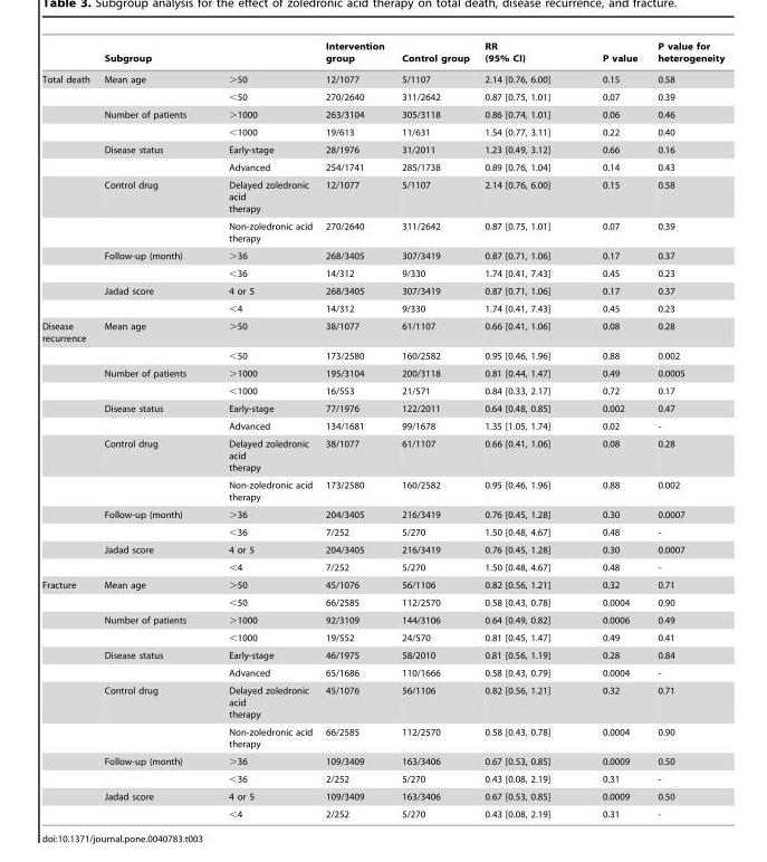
<table><thead><tr><td rowspan="2">Total death</td><td colspan="2">Subgroup</td><td rowspan="2">Intervention group 12/1077</td><td rowspan="2">Control group 5/1107</td><td rowspan="2">RR (95% CI) 2.14 [0.76, 6.00]</td><td rowspan="2">P value 0.15</td><td rowspan="2">P value for heterogeneity 0.58</td></tr><tr><td>Mean age</td><td>&gt;50</td></tr></thead><tbody><tr><td></td><td></td><td>&lt;50</td><td>270/2640</td><td>311/2642</td><td>0.87 [0.75, 1.01]</td><td>0.07</td><td>0.39</td></tr><tr><td></td><td>Number of patients</td><td>&gt;1000</td><td>263/3104</td><td>305/3118</td><td>0.86 [0.74, 1.01]</td><td>0.06</td><td>0.46</td></tr><tr><td></td><td></td><td>&lt;1000</td><td>19/613</td><td>11/631</td><td>1.54 [0.77, 3.11]</td><td>0.22</td><td>0.40</td></tr><tr><td></td><td>Disease status</td><td>Early-stage</td><td>28/1976</td><td>31/2011</td><td>1.23 [0.49, 3.12]</td><td>0.66</td><td>0.16</td></tr><tr><td></td><td></td><td>Advanced</td><td>254/1741</td><td>285/1738</td><td>0.89 [0.76, 1.04]</td><td>0.14</td><td>0.43</td></tr><tr><td></td><td>Control drug</td><td>Delayed zoledronic acid therapy</td><td>12/1077</td><td>5/1107</td><td>2.14 [0.76, 6.00]</td><td>0.15</td><td>0.58</td></tr><tr><td></td><td></td><td>Non-zoledronic acid therapy</td><td>270/2640</td><td>311/2642</td><td>0.87 [0.75, 1.01]</td><td>0.07</td><td>0.39</td></tr><tr><td></td><td>Follow-up (month)</td><td>&gt;36</td><td>268/3405</td><td>307/3419</td><td>0.87 [0.71, 1.06]</td><td>0.17</td><td>0.37</td></tr><tr><td></td><td></td><td>&lt;36</td><td>14/312</td><td>9/330</td><td>1.74 [0.41, 7.43]</td><td>0.45</td><td>0.23</td></tr><tr><td></td><td>Jadad score</td><td>4 or 5</td><td>268/3405</td><td>307/3419</td><td>0.87 [0.71, 1.06]</td><td>0.17</td><td>0.37</td></tr><tr><td></td><td></td><td>&lt;4</td><td>14/312</td><td>9/330</td><td>1.74 [0.41, 7.43]</td><td>0.45</td><td>0.23</td></tr><tr><td rowspan="12">Disease recurrence</td><td>Mean age</td><td>&gt;50</td><td>38/1077</td><td>61/1107</td><td>0.66 [0.41, 1.06]</td><td>0.08</td><td>0.28</td></tr><tr><td></td><td>&lt;50</td><td>173/2580</td><td>160/2582</td><td>0.95 [0.46, 1.96]</td><td>0.88</td><td>0.002</td></tr><tr><td>Number of patients</td><td>&gt;1000</td><td>195/3104</td><td>200/3118</td><td>0.81 [0.44, 1.47]</td><td>0.49</td><td>0.0005</td></tr><tr><td></td><td>&lt;1000</td><td>16/553</td><td>21/571</td><td>0.84 [0.33, 2.17]</td><td>0.72</td><td>0.17</td></tr><tr><td>Disease status</td><td>Early-stage</td><td>77/1976</td><td>122/2011</td><td>0.64 [0.48, 0.85]</td><td>0.002</td><td>0.47</td></tr><tr><td></td><td>Advanced</td><td>134/1681</td><td>99/1678</td><td>1.35 [1.05, 1.74]</td><td>0.02</td><td>-</td></tr><tr><td>Control drug</td><td>Delayed zoledronic acid therapy</td><td>38/1077</td><td>61/1107</td><td>0.66 [0.41, 1.06]</td><td>0.08</td><td>0.28</td></tr><tr><td></td><td>Non-zoledronic acid therapy</td><td>173/2580</td><td>160/2582</td><td>0.95 [0.46, 1.96]</td><td>0.88</td><td>0.002</td></tr><tr><td>Follow-up (month)</td><td>&gt;36</td><td>204/3405</td><td>216/3419</td><td>0.76 [0.45, 1.28]</td><td>0.30</td><td>0.0007</td></tr><tr><td></td><td>&lt;36</td><td>7/252</td><td>5/270</td><td>1.50 [0.48, 4.67]</td><td>0.48</td><td>-</td></tr><tr><td>Jadad score</td><td>4 or 5</td><td>204/3405</td><td>216/3419</td><td>0.76 [0.45, 1.28]</td><td>0.30</td><td>0.0007</td></tr><tr><td></td><td>&lt;4</td><td>7/252</td><td>5/270</td><td>1.50 [0.48, 4.67]</td><td>0.48</td><td>-</td></tr><tr><td rowspan="12">Fracture</td><td>Mean age</td><td>&gt;50</td><td>45/1076</td><td>56/1106</td><td>0.82 [0.56, 1.21]</td><td>0.32</td><td>0.71</td></tr><tr><td></td><td>&lt;50</td><td>66/2585</td><td>112/2570</td><td>0.58 [0.43, 0.78]</td><td>0.0004</td><td>0.90</td></tr><tr><td>Number of patients</td><td>&gt;1000</td><td>92/3109</td><td>144/3106</td><td>0.64 [0.49, 0.82]</td><td>0.0006</td><td>0.49</td></tr><tr><td></td><td>&lt;1000</td><td>19/552</td><td>24/570</td><td>0.81 [0.45, 1.47]</td><td>0.49</td><td>0.41</td></tr><tr><td>Disease status</td><td>Early-stage</td><td>46/1975</td><td>58/2010</td><td>0.81 [0.56, 1.19]</td><td>0.28</td><td>0.84</td></tr><tr><td></td><td>Advanced</td><td>65/1686</td><td>110/1666</td><td>0.58 [0.43, 0.79]</td><td>0.0004</td><td>-</td></tr><tr><td>Control drug</td><td>Delayed zoledronic acid therapy</td><td>45/1076</td><td>56/1106</td><td>0.82 [0.56, 1.21]</td><td>0.32</td><td>0.71</td></tr><tr><td></td><td>Non-zoledronic acid therapy</td><td>66/2585</td><td>112/2570</td><td>0.58 [0.43, 0.78]</td><td>0.0004</td><td>0.90</td></tr><tr><td>Follow-up (month)</td><td>&gt;36</td><td>109/3409</td><td>163/3406</td><td>0.67 [0.53, 0.85]</td><td>0.0009</td><td>0.50</td></tr><tr><td></td><td>&lt;36</td><td>2/252</td><td>5/270</td><td>0.43 [0.08, 2.19]</td><td>0.31</td><td>-</td></tr><tr><td>Jadad score</td><td>4 or 5</td><td>109/3409</td><td>163/3406</td><td>0.67 [0.53, 0.85]</td><td>0.0009</td><td>0.50</td></tr><tr><td></td><td>&lt;4</td><td>2/252</td><td>5/270</td><td>0.43 [0.08, 2.19]</td><td>0.31</td><td>-</td></tr></tbody></table>